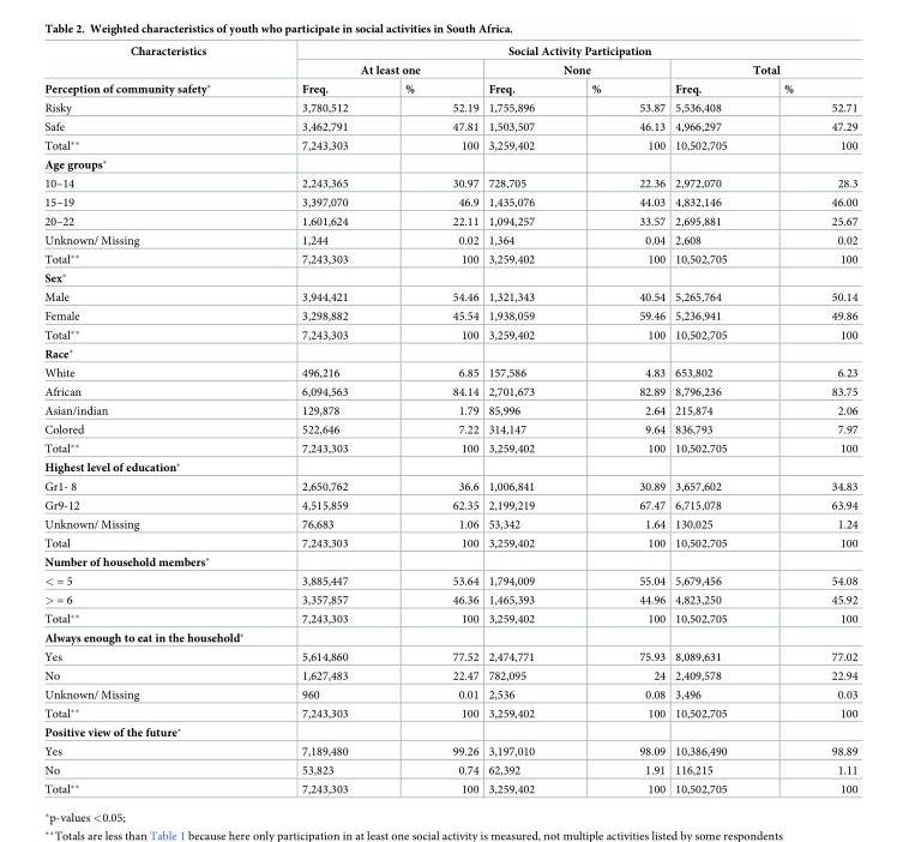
<table><thead><tr><td rowspan="3">Characteristics Perception of community safety*</td><td colspan="6">Social Activity Participation</td></tr><tr><td colspan="2">At least one</td><td colspan="2">None</td><td colspan="2">Total</td></tr><tr><td>Freq.</td><td>%</td><td>Freq.</td><td>%</td><td>Freq.</td><td>%</td></tr></thead><tbody><tr><td>Risky</td><td>3,780,512</td><td>52.19</td><td>1,755,896</td><td>53.87</td><td>5,536,408</td><td>52.71</td></tr><tr><td>Safe</td><td>3,462,791</td><td>47.81</td><td>1,503,507</td><td>46.13</td><td>4,966,297</td><td>47.29</td></tr><tr><td>Total**</td><td>7,243,303</td><td>100</td><td>3,259,402</td><td>100</td><td>10,502,705</td><td>100</td></tr><tr><td colspan="7">Age groups*</td></tr><tr><td>10–14</td><td>2,243,365</td><td>30.97</td><td>728,705</td><td>22.36</td><td>2,972,070</td><td>28.3</td></tr><tr><td>15–19</td><td>3,397,070</td><td>46.9</td><td>1,435,076</td><td>44.03</td><td>4,832,146</td><td>46.00</td></tr><tr><td>20–22</td><td>1,601,624</td><td>22.11</td><td>1,094,257</td><td>33.57</td><td>2,695,881</td><td>25.67</td></tr><tr><td>Unknown/ Missing</td><td>1,244</td><td>0.02</td><td>1,364</td><td>0.04</td><td>2,608</td><td>0.02</td></tr><tr><td>Total**</td><td>7,243,303</td><td>100</td><td>3,259,402</td><td>100</td><td>10,502,705</td><td>100</td></tr><tr><td colspan="7">Sex*</td></tr><tr><td>Male</td><td>3,944,421</td><td>54.46</td><td>1,321,343</td><td>40.54</td><td>5,265,764</td><td>50.14</td></tr><tr><td>Female</td><td>3,298,882</td><td>45.54</td><td>1,938,059</td><td>59.46</td><td>5,236,941</td><td>49.86</td></tr><tr><td>Total**</td><td>7,243,303</td><td>100</td><td>3,259,402</td><td>100</td><td>10,502,705</td><td>100</td></tr><tr><td colspan="7">Race*</td></tr><tr><td>White</td><td>496,216</td><td>6.85</td><td>157,586</td><td>4.83</td><td>653,802</td><td>6.23</td></tr><tr><td>African</td><td>6,094,563</td><td>84.14</td><td>2,701,673</td><td>82.89</td><td>8,796,236</td><td>83.75</td></tr><tr><td>Asian/indian</td><td>129,878</td><td>1.79</td><td>85,996</td><td>2.64</td><td>215,874</td><td>2.06</td></tr><tr><td>Colored</td><td>522,646</td><td>7.22</td><td>314,147</td><td>9.64</td><td>836,793</td><td>7.97</td></tr><tr><td>Total**</td><td>7,243,303</td><td>100</td><td>3,259,402</td><td>100</td><td>10,502,705</td><td>100</td></tr><tr><td colspan="7">Highest level of education*</td></tr><tr><td>Gr1- 8</td><td>2,650,762</td><td>36.6</td><td>1,006,841</td><td>30.89</td><td>3,657,602</td><td>34.83</td></tr><tr><td>Gr9-12</td><td>4,515,859</td><td>62.35</td><td>2,199,219</td><td>67.47</td><td>6,715,078</td><td>63.94</td></tr><tr><td>Unknown/ Missing</td><td>76,683</td><td>1.06</td><td>53,342</td><td>1.64</td><td>130,025</td><td>1.24</td></tr><tr><td>Total</td><td>7,243,303</td><td>100</td><td>3,259,402</td><td>100</td><td>10,502,705</td><td>100</td></tr><tr><td colspan="7">Number of household members*</td></tr><tr><td>&lt; = 5</td><td>3,885,447</td><td>53.64</td><td>1,794,009</td><td>55.04</td><td>5,679,456</td><td>54.08</td></tr><tr><td>&gt; = 6</td><td>3,357,857</td><td>46.36</td><td>1,465,393</td><td>44.96</td><td>4,823,250</td><td>45.92</td></tr><tr><td>Total**</td><td>7,243,303</td><td>100</td><td>3,259,402</td><td>100</td><td>10,502,705</td><td>100</td></tr><tr><td colspan="7">Always enough to eat in the household*</td></tr><tr><td>Yes</td><td>5,614,860</td><td>77.52</td><td>2,474,771</td><td>75.93</td><td>8,089,631</td><td>77.02</td></tr><tr><td>No</td><td>1,627,483</td><td>22.47</td><td>782,095</td><td>24</td><td>2,409,578</td><td>22.94</td></tr><tr><td>Unknown/ Missing</td><td>960</td><td>0.01</td><td>2,536</td><td>0.08</td><td>3,496</td><td>0.03</td></tr><tr><td>Total**</td><td>7,243,303</td><td>100</td><td>3,259,402</td><td>100</td><td>10,502,705</td><td>100</td></tr><tr><td colspan="7">Positive view of the future*</td></tr><tr><td>Yes</td><td>7,189,480</td><td>99.26</td><td>3,197,010</td><td>98.09</td><td>10,386,490</td><td>98.89</td></tr><tr><td>No</td><td>53,823</td><td>0.74</td><td>62,392</td><td>1.91</td><td>116,215</td><td>1.11</td></tr><tr><td>Total**</td><td>7,243,303</td><td>100</td><td>3,259,402</td><td>100</td><td>10,502,705</td><td>100</td></tr></tbody></table>